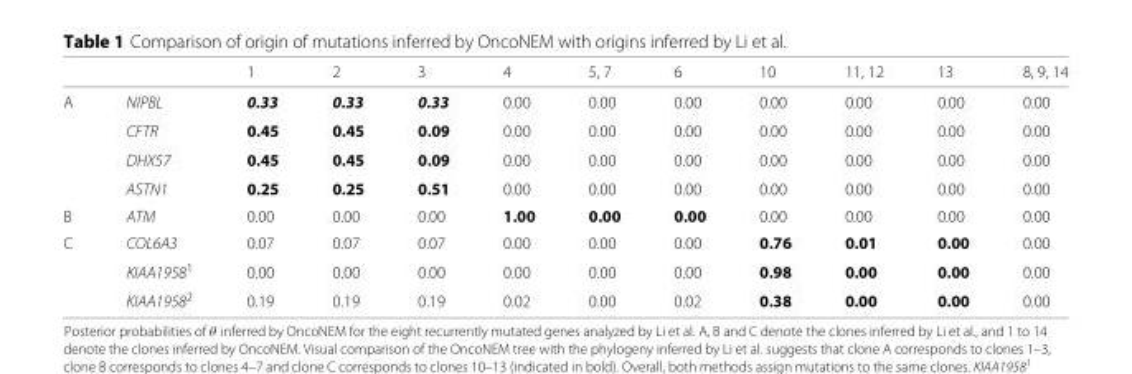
<table><thead><tr><td></td><td></td><td>1</td><td>2</td><td>3</td><td>4</td><td>5, 7</td><td>6</td><td>10</td><td>11, 12</td><td>13</td><td>8, 9, 14</td></tr></thead><tbody><tr><td rowspan="4">A</td><td>NIPBL</td><td>0.33</td><td>0.33</td><td>0.33</td><td>0.00</td><td>0.00</td><td>0.00</td><td>0.00</td><td>0.00</td><td>0.00</td><td>0.00</td></tr><tr><td>CFTR</td><td>0.45</td><td>0.45</td><td>0.09</td><td>0.00</td><td>0.00</td><td>0.00</td><td>0.00</td><td>0.00</td><td>0.00</td><td>0.00</td></tr><tr><td>DHX57</td><td>0.45</td><td>0.45</td><td>0.09</td><td>0.00</td><td>0.00</td><td>0.00</td><td>0.00</td><td>0.00</td><td>0.00</td><td>0.00</td></tr><tr><td>ASTN1</td><td>0.25</td><td>0.25</td><td>0.51</td><td>0.00</td><td>0.00</td><td>0.00</td><td>0.00</td><td>0.00</td><td>0.00</td><td>0.00</td></tr><tr><td>B</td><td>ATM</td><td>0.00</td><td>0.00</td><td>0.00</td><td>1.00</td><td>0.00</td><td>0.00</td><td>0.00</td><td>0.00</td><td>0.00</td><td>0.00</td></tr><tr><td rowspan="3">C</td><td>COL6A3</td><td>0.07</td><td>0.07</td><td>0.07</td><td>0.00</td><td>0.00</td><td>0.00</td><td>0.76</td><td>0.01</td><td>0.00</td><td>0.00</td></tr><tr><td>KIAA1958<sup>1</sup></td><td>0.00</td><td>0.00</td><td>0.00</td><td>0.00</td><td>0.00</td><td>0.00</td><td>0.98</td><td>0.00</td><td>0.00</td><td>0.00</td></tr><tr><td>KIAA1958<sup>2</sup></td><td>0.19</td><td>0.19</td><td>0.19</td><td>0.02</td><td>0.00</td><td>0.02</td><td>0.38</td><td>0.00</td><td>0.00</td><td>0.00</td></tr></tbody></table>